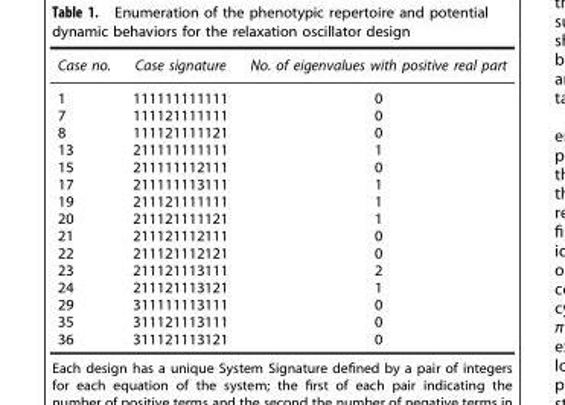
<table><thead><tr><td>Case no.</td><td>Case signature</td><td>No. of eigenvalues with positive real part</td></tr></thead><tbody><tr><td>1</td><td>111111111111</td><td>0</td></tr><tr><td>7</td><td>111121111111</td><td>0</td></tr><tr><td>8</td><td>111121111121</td><td>0</td></tr><tr><td>13</td><td>211111111111</td><td>1</td></tr><tr><td>15</td><td>211111112111</td><td>0</td></tr><tr><td>17</td><td>211111113111</td><td>1</td></tr><tr><td>19</td><td>211121111111</td><td>1</td></tr><tr><td>20</td><td>211121111121</td><td>1</td></tr><tr><td>21</td><td>211121112111</td><td>0</td></tr><tr><td>22</td><td>211121112121</td><td>0</td></tr><tr><td>23</td><td>211121113111</td><td>2</td></tr><tr><td>24</td><td>211121113121</td><td>1</td></tr><tr><td>29</td><td>311111113111</td><td>0</td></tr><tr><td>35</td><td>311121113111</td><td>0</td></tr><tr><td>36</td><td>311121113121</td><td>0</td></tr></tbody></table>